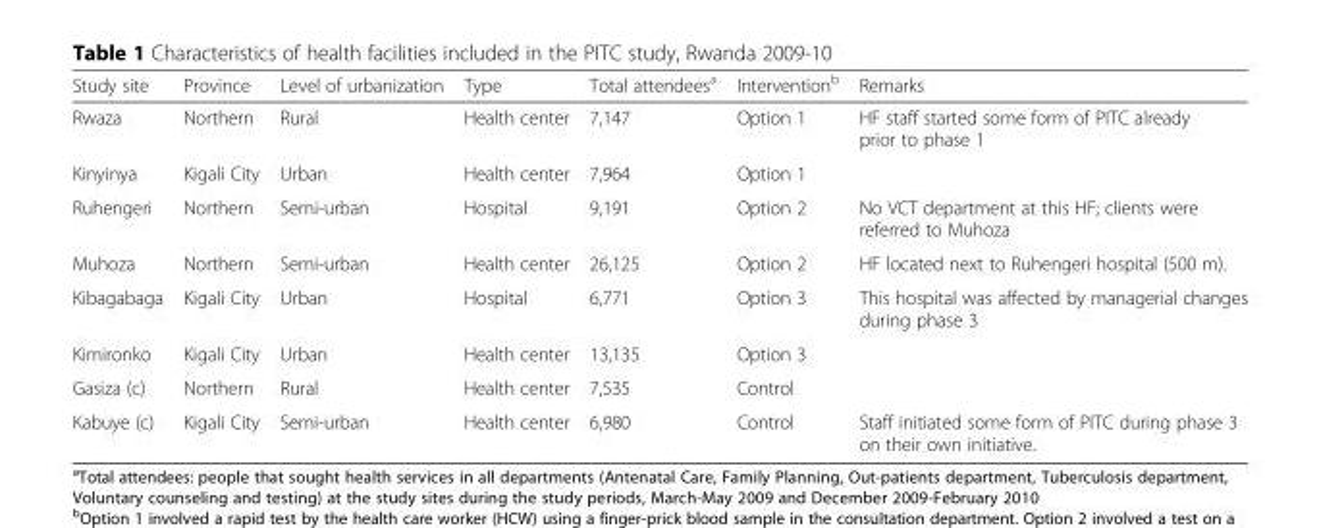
<table><thead><tr><td>Study site</td><td>Province</td><td>Level of urbanization</td><td>Type</td><td>Total attendees<sup>a</sup></td><td>Intervention<sup>b</sup></td><td>Remarks</td></tr></thead><tbody><tr><td>Rwaza</td><td>Northern</td><td>Rural</td><td>Health center</td><td>7,147</td><td>Option 1</td><td>HF staff started some form of PITC already prior to phase 1</td></tr><tr><td>Kinyinya</td><td>Kigali City</td><td>Urban</td><td>Health center</td><td>7,964</td><td>Option 1</td><td></td></tr><tr><td>Ruhengeri</td><td>Northern</td><td>Semi-urban</td><td>Hospital</td><td>9,191</td><td>Option 2</td><td>No VCT department at this HF; clients were referred to Muhoza</td></tr><tr><td>Muhoza</td><td>Northern</td><td>Semi-urban</td><td>Health center</td><td>26,125</td><td>Option 2</td><td>HF located next to Ruhengeri hospital (500 m).</td></tr><tr><td>Kibagabaga</td><td>Kigali City</td><td>Urban</td><td>Hospital</td><td>6,771</td><td>Option 3</td><td>This hospital was affected by managerial changes during phase 3</td></tr><tr><td>Kimironko</td><td>Kigali City</td><td>Urban</td><td>Health center</td><td>13,135</td><td>Option 3</td><td></td></tr><tr><td>Gasiza (c)</td><td>Northern</td><td>Rural</td><td>Health center</td><td>7,535</td><td>Control</td><td></td></tr><tr><td>Kabuye (c)</td><td>Kigali City</td><td>Semi-urban</td><td>Health center</td><td>6,980</td><td>Control</td><td>Staff initiated some form of PITC during phase 3 on their own initiative.</td></tr></tbody></table>